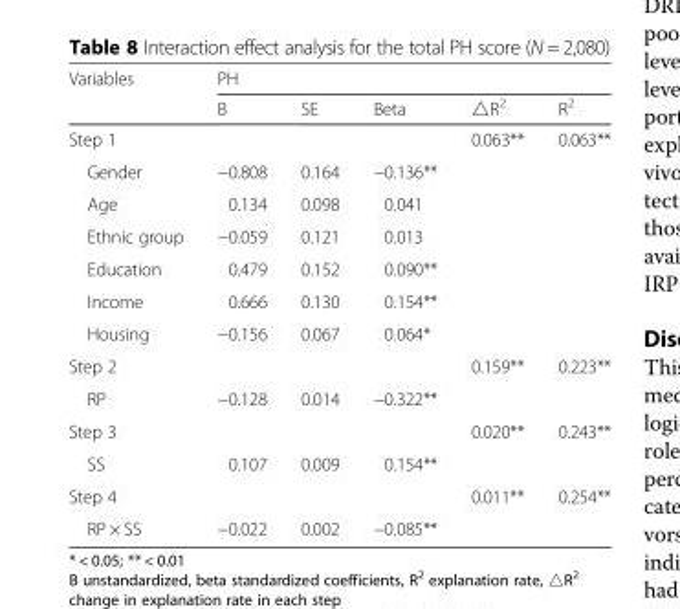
<table><thead><tr><td rowspan="2">Variables</td><td colspan="5">PH</td></tr><tr><td>B</td><td>SE</td><td>Beta</td><td>△R<sup>2</sup></td><td>R<sup>2</sup></td></tr></thead><tbody><tr><td>Step 1</td><td></td><td></td><td></td><td>0.063**</td><td>0.063**</td></tr><tr><td>Gender</td><td>−0.808</td><td>0.164</td><td>−0.136**</td><td></td><td></td></tr><tr><td>Age</td><td>0.134</td><td>0.098</td><td>0.041</td><td></td><td></td></tr><tr><td>Ethnic group</td><td>−0.059</td><td>0.121</td><td>0.013</td><td></td><td></td></tr><tr><td>Education</td><td>0.479</td><td>0.152</td><td>0.090**</td><td></td><td></td></tr><tr><td>Income</td><td>0.666</td><td>0.130</td><td>0.154**</td><td></td><td></td></tr><tr><td>Housing</td><td>−0.156</td><td>0.067</td><td>0.064*</td><td></td><td></td></tr><tr><td>Step 2</td><td></td><td></td><td></td><td>0.159**</td><td>0.223**</td></tr><tr><td>RP</td><td>−0.128</td><td>0.014</td><td>−0.322**</td><td></td><td></td></tr><tr><td>Step 3</td><td></td><td></td><td></td><td>0.020**</td><td>0.243**</td></tr><tr><td>SS</td><td>0.107</td><td>0.009</td><td>0.154**</td><td></td><td></td></tr><tr><td>Step 4</td><td></td><td></td><td></td><td>0.011**</td><td>0.254**</td></tr><tr><td>RP × SS</td><td>−0.022</td><td>0.002</td><td>−0.085**</td><td></td><td></td></tr></tbody></table>